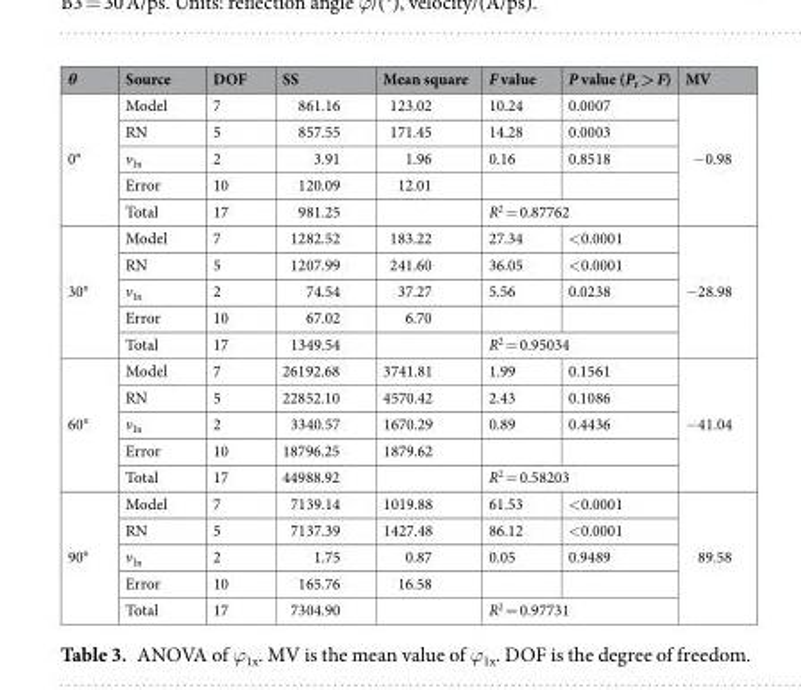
<table><thead><tr><td>θ</td><td>Source</td><td>DOF</td><td>SS</td><td>Mean square</td><td>F value</td><td>P value (P<sub>r</sub> &gt; F)</td><td>MV</td></tr></thead><tbody><tr><td rowspan="5">0°</td><td>Model</td><td>7</td><td>861.16</td><td>123.02</td><td>10.24</td><td>0.0007</td><td rowspan="5">−0.98</td></tr><tr><td>RN</td><td>5</td><td>857.55</td><td>171.45</td><td>14.28</td><td>0.0003</td></tr><tr><td>v<sub>In</sub></td><td>2</td><td>3.91</td><td>1.96</td><td>0.16</td><td>0.8518</td></tr><tr><td>Error</td><td>10</td><td>120.09</td><td>12.01</td><td></td><td></td></tr><tr><td>Total</td><td>17</td><td>981.25</td><td></td><td colspan="2">R<sup>2</sup> = 0.87762</td></tr><tr><td rowspan="5">30°</td><td>Model</td><td>7</td><td>1282.52</td><td>183.22</td><td>27.34</td><td>&lt;0.0001</td><td rowspan="5">−28.98</td></tr><tr><td>RN</td><td>5</td><td>1207.99</td><td>241.60</td><td>36.05</td><td>&lt;0.0001</td></tr><tr><td>v<sub>In</sub></td><td>2</td><td>74.54</td><td>37.27</td><td>5.56</td><td>0.0238</td></tr><tr><td>Error</td><td>10</td><td>67.02</td><td>6.70</td><td></td><td></td></tr><tr><td>Total</td><td>17</td><td>1349.54</td><td></td><td colspan="2">R<sup>2</sup> = 0.95034</td></tr><tr><td rowspan="5">60°</td><td>Model</td><td>7</td><td>26192.68</td><td>3741.81</td><td>1.99</td><td>0.1561</td><td rowspan="5">−41.04</td></tr><tr><td>RN</td><td>5</td><td>22852.10</td><td>4570.42</td><td>2.43</td><td>0.1086</td></tr><tr><td>v<sub>In</sub></td><td>2</td><td>3340.57</td><td>1670.29</td><td>0.89</td><td>0.4436</td></tr><tr><td>Error</td><td>10</td><td>18796.25</td><td>1879.62</td><td></td><td></td></tr><tr><td>Total</td><td>17</td><td>44988.92</td><td></td><td colspan="2">R<sup>2</sup> = 0.58203</td></tr><tr><td rowspan="5">90°</td><td>Model</td><td>7</td><td>7139.14</td><td>1019.88</td><td>61.53</td><td>&lt;0.0001</td><td rowspan="5">89.58</td></tr><tr><td>RN</td><td>5</td><td>7137.39</td><td>1427.48</td><td>86.12</td><td>&lt;0.0001</td></tr><tr><td>v<sub>In</sub></td><td>2</td><td>1.75</td><td>0.87</td><td>0.05</td><td>0.9489</td></tr><tr><td>Error</td><td>10</td><td>165.76</td><td>16.58</td><td></td><td></td></tr><tr><td>Total</td><td>17</td><td>7304.90</td><td></td><td colspan="2">R<sup>2</sup> = 0.97731</td></tr></tbody></table>